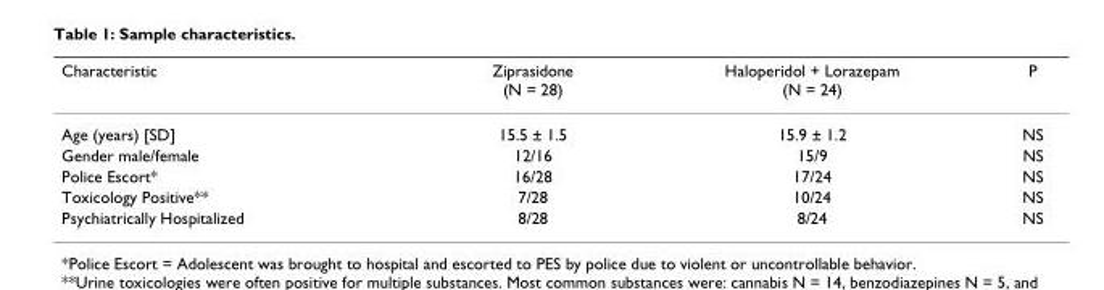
<table><thead><tr><td>Characteristic</td><td>Ziprasidone (N = 28)</td><td>Haloperidol + Lorazepam (N = 24)</td><td>P</td></tr></thead><tbody><tr><td>Age (years) [SD]</td><td>15.5 ± 1.5</td><td>15.9 ± 1.2</td><td>NS</td></tr><tr><td>Gender male/female</td><td>12/16</td><td>15/9</td><td>NS</td></tr><tr><td>Police Escort*</td><td>16/28</td><td>17/24</td><td>NS</td></tr><tr><td>Toxicology Positive**</td><td>7/28</td><td>10/24</td><td>NS</td></tr><tr><td>Psychiatrically Hospitalized</td><td>8/28</td><td>8/24</td><td>NS</td></tr></tbody></table>